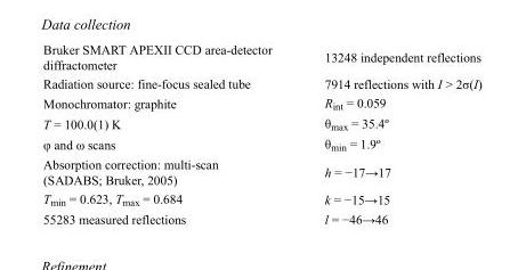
<table><tbody><tr><td>Bruker SMART APEXII CCD area-detector diffractometer</td><td>13248 independent reflections</td></tr><tr><td>Radiation source: fine-focus sealed tube</td><td>7914 reflections with I &gt; 2σ(I)</td></tr><tr><td>Monochromator: graphite</td><td>R<sub>int</sub> = 0.059</td></tr><tr><td>T = 100.0(1) K</td><td>θ<sub>max</sub> = 35.4º</td></tr><tr><td>φ and ω scans</td><td>θ<sub>min</sub> = 1.9º</td></tr><tr><td>Absorption correction: multi-scan (SADABS; Bruker, 2005)</td><td>h = −17→17</td></tr><tr><td>T<sub>min</sub> = 0.623, T<sub>max</sub> = 0.684</td><td>k = −15→15</td></tr><tr><td>55283 measured reflections</td><td>l = −46→46</td></tr></tbody></table>